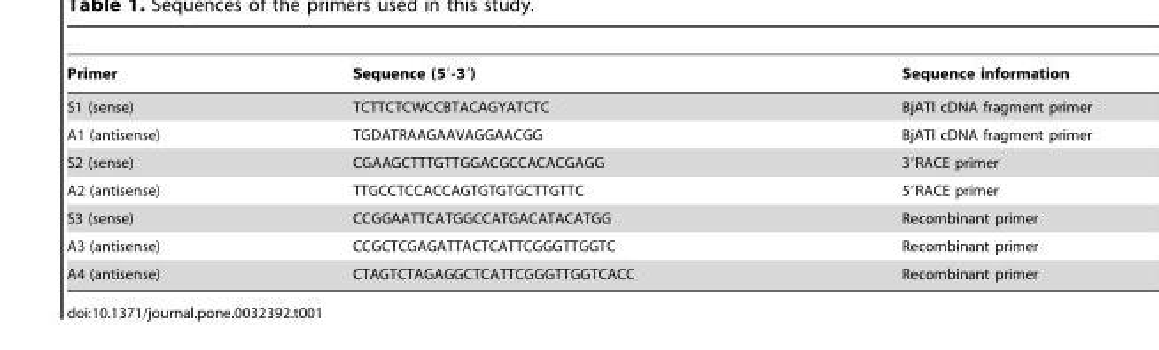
<table><thead><tr><td>Primer</td><td>Sequence (5′-3′)</td><td>Sequence information</td></tr></thead><tbody><tr><td>S1 (sense)</td><td>TCTTCTCWCCBTACAGYATCTC</td><td>BjATl cDNA fragment primer</td></tr><tr><td>A1 (antisense)</td><td>TGDATRAAGAAVAGGAACGG</td><td>BjATl cDNA fragment primer</td></tr><tr><td>S2 (sense)</td><td>CGAAGCTTTGTTGGACGCCACACGAGG</td><td>3′RACE primer</td></tr><tr><td>A2 (antisense)</td><td>TTGCCTCCACCAGTGTGTGCTTGTTC</td><td>5′RACE primer</td></tr><tr><td>S3 (sense)</td><td>CCGGAATTCATGGCCATGACATACATGG</td><td>Recombinant primer</td></tr><tr><td>A3 (antisense)</td><td>CCGCTCGAGATTACTCATTCGGGTTGGTC</td><td>Recombinant primer</td></tr><tr><td>A4 (antisense)</td><td>CTAGTCTAGAGGCTCATTCGGGTTGGTCACC</td><td>Recombinant primer</td></tr></tbody></table>